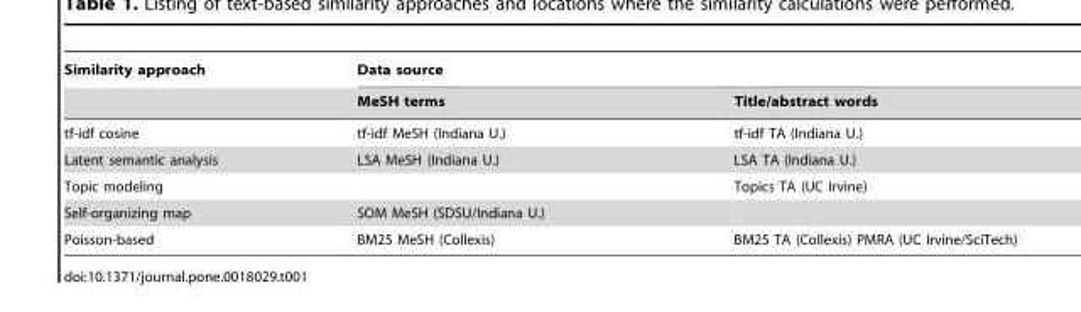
<table><thead><tr><td rowspan="2">Similarity approach</td><td colspan="2">Data source</td></tr><tr><td>MeSH terms</td><td>Title/abstract words</td></tr></thead><tbody><tr><td>tf-idf cosine</td><td>tf-idf MeSH (Indiana U.)</td><td>tf-idf TA (Indiana U.)</td></tr><tr><td>Latent semantic analysis</td><td>LSA MeSH (Indiana U.)</td><td>LSA TA (Indiana U.)</td></tr><tr><td>Topic modeling</td><td></td><td>Topics TA (UC Irvine)</td></tr><tr><td>Self-organizing map</td><td>SOM MeSH (SDSU/Indiana U.)</td><td></td></tr><tr><td>Poisson-based</td><td>BM25 MeSH (Collexis)</td><td>BM25 TA (Collexis) PMRA (UC Irvine/SciTech)</td></tr></tbody></table>